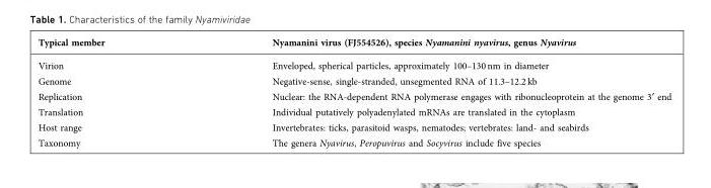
<table><thead><tr><td>Typical member</td><td>Nyamanini virus (FJ554526), species Nyamanini nyavirus, genus Nyavirus</td></tr></thead><tbody><tr><td>Virion</td><td>Enveloped, spherical particles, approximately 100–130 nm in diameter</td></tr><tr><td>Genome</td><td>Negative-sense, single-stranded, unsegmented RNA of 11.3–12.2 kb</td></tr><tr><td>Replication</td><td>Nuclear: the RNA-dependent RNA polymerase engages with ribonucleoprotein at the genome 3¢ end</td></tr><tr><td>Translation</td><td>Individual putatively polyadenylated mRNAs are translated in the cytoplasm</td></tr><tr><td>Host range</td><td>Invertebrates: ticks, parasitoid wasps, nematodes; vertebrates: land- and seabirds</td></tr><tr><td>Taxonomy</td><td>The genera Nyavirus, Peropuvirus and Socyvirus include five species</td></tr></tbody></table>